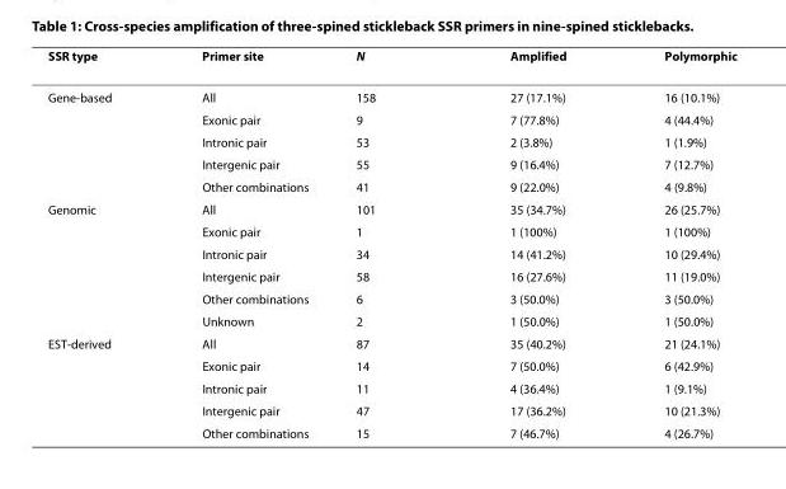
<table><thead><tr><td>SSR type</td><td>Primer site</td><td>N</td><td>Amplified</td><td>Polymorphic</td></tr></thead><tbody><tr><td rowspan="5">Gene-based</td><td>All</td><td>158</td><td>27 (17.1%)</td><td>16 (10.1%)</td></tr><tr><td>Exonic pair</td><td>9</td><td>7 (77.8%)</td><td>4 (44.4%)</td></tr><tr><td>Intronic pair</td><td>53</td><td>2 (3.8%)</td><td>1 (1.9%)</td></tr><tr><td>Intergenic pair</td><td>55</td><td>9 (16.4%)</td><td>7 (12.7%)</td></tr><tr><td>Other combinations</td><td>41</td><td>9 (22.0%)</td><td>4 (9.8%)</td></tr><tr><td rowspan="6">Genomic</td><td>All</td><td>101</td><td>35 (34.7%)</td><td>26 (25.7%)</td></tr><tr><td>Exonic pair</td><td>1</td><td>1 (100%)</td><td>1 (100%)</td></tr><tr><td>Intronic pair</td><td>34</td><td>14 (41.2%)</td><td>10 (29.4%)</td></tr><tr><td>Intergenic pair</td><td>58</td><td>16 (27.6%)</td><td>11 (19.0%)</td></tr><tr><td>Other combinations</td><td>6</td><td>3 (50.0%)</td><td>3 (50.0%)</td></tr><tr><td>Unknown</td><td>2</td><td>1 (50.0%)</td><td>1 (50.0%)</td></tr><tr><td rowspan="5">EST-derived</td><td>All</td><td>87</td><td>35 (40.2%)</td><td>21 (24.1%)</td></tr><tr><td>Exonic pair</td><td>14</td><td>7 (50.0%)</td><td>6 (42.9%)</td></tr><tr><td>Intronic pair</td><td>11</td><td>4 (36.4%)</td><td>1 (9.1%)</td></tr><tr><td>Intergenic pair</td><td>47</td><td>17 (36.2%)</td><td>10 (21.3%)</td></tr><tr><td>Other combinations</td><td>15</td><td>7 (46.7%)</td><td>4 (26.7%)</td></tr></tbody></table>